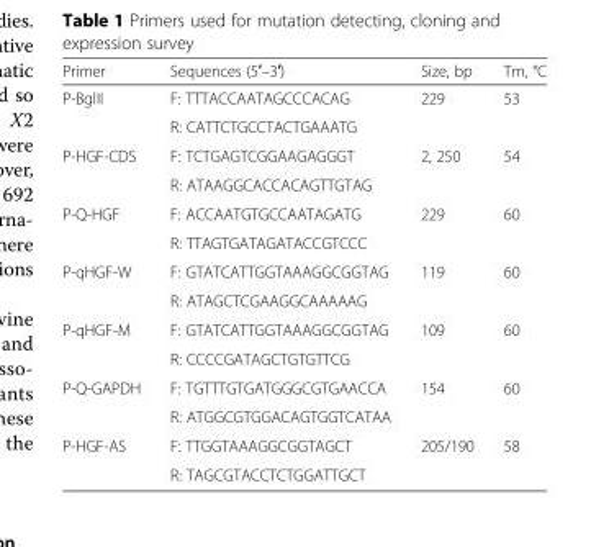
<table><thead><tr><td>Primer</td><td>Sequences (5′–3′)</td><td>Size, bp</td><td>Tm, °C</td></tr></thead><tbody><tr><td rowspan="2">P-BglII</td><td>F: TTTACCAATAGCCCACAG</td><td rowspan="2">229</td><td rowspan="2">53</td></tr><tr><td>R: CATTCTGCCTACTGAAATG</td></tr><tr><td rowspan="2">P-HGF-CDS</td><td>F: TCTGAGTCGGAAGAGGGT</td><td rowspan="2">2, 250</td><td rowspan="2">54</td></tr><tr><td>R: ATAAGGCACCACAGTTGTAG</td></tr><tr><td rowspan="2">P-Q-HGF</td><td>F: ACCAATGTGCCAATAGATG</td><td rowspan="2">229</td><td rowspan="2">60</td></tr><tr><td>R: TTAGTGATAGATACCGTCCC</td></tr><tr><td rowspan="2">P-qHGF-W</td><td>F: GTATCATTGGTAAAGGCGGTAG</td><td rowspan="2">119</td><td rowspan="2">60</td></tr><tr><td>R: ATAGCTCGAAGGCAAAAAG</td></tr><tr><td rowspan="2">P-qHGF-M</td><td>F: GTATCATTGGTAAAGGCGGTAG</td><td rowspan="2">109</td><td rowspan="2">60</td></tr><tr><td>R: CCCCGATAGCTGTGTTCG</td></tr><tr><td rowspan="2">P-Q-GAPDH</td><td>F: TGTTTGTGATGGGCGTGAACCA</td><td rowspan="2">154</td><td rowspan="2">60</td></tr><tr><td>R: ATGGCGTGGACAGTGGTCATAA</td></tr><tr><td rowspan="2">P-HGF-AS</td><td>F: TTGGTAAAGGCGGTAGCT</td><td rowspan="2">205/190</td><td rowspan="2">58</td></tr><tr><td>R: TAGCGTACCTCTGGATTGCT</td></tr></tbody></table>